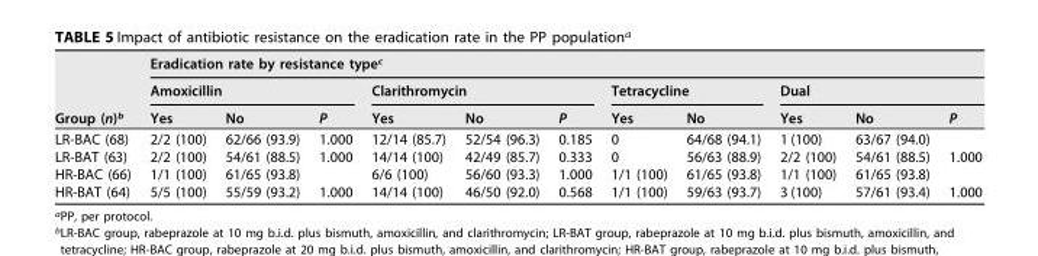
<table><thead><tr><td rowspan="3">Group (n)<sup>b</sup></td><td colspan="11">Eradication rate by resistance type<sup>c</sup></td></tr><tr><td colspan="3">Amoxicillin</td><td colspan="3">Clarithromycin</td><td colspan="2">Tetracycline</td><td colspan="3">Dual</td></tr><tr><td>Yes</td><td>No</td><td>P</td><td>Yes</td><td>No</td><td>P</td><td>Yes</td><td>No</td><td>Yes</td><td>No</td><td>P</td></tr></thead><tbody><tr><td>LR-BAC (68)</td><td>2/2 (100)</td><td>62/66 (93.9)</td><td>1.000</td><td>12/14 (85.7)</td><td>52/54 (96.3)</td><td>0.185</td><td>0</td><td>64/68 (94.1)</td><td>1 (100)</td><td>63/67 (94.0)</td><td></td></tr><tr><td>LR-BAT (63)</td><td>2/2 (100)</td><td>54/61 (88.5)</td><td>1.000</td><td>14/14 (100)</td><td>42/49 (85.7)</td><td>0.333</td><td>0</td><td>56/63 (88.9)</td><td>2/2 (100)</td><td>54/61 (88.5)</td><td>1.000</td></tr><tr><td>HR-BAC (66)</td><td>1/1 (100)</td><td>61/65 (93.8)</td><td></td><td>6/6 (100)</td><td>56/60 (93.3)</td><td>1.000</td><td>1/1 (100)</td><td>61/65 (93.8)</td><td>1/1 (100)</td><td>61/65 (93.8)</td><td></td></tr><tr><td>HR-BAT (64)</td><td>5/5 (100)</td><td>55/59 (93.2)</td><td>1.000</td><td>14/14 (100)</td><td>46/50 (92.0)</td><td>0.568</td><td>1/1 (100)</td><td>59/63 (93.7)</td><td>3 (100)</td><td>57/61 (93.4)</td><td>1.000</td></tr></tbody></table>